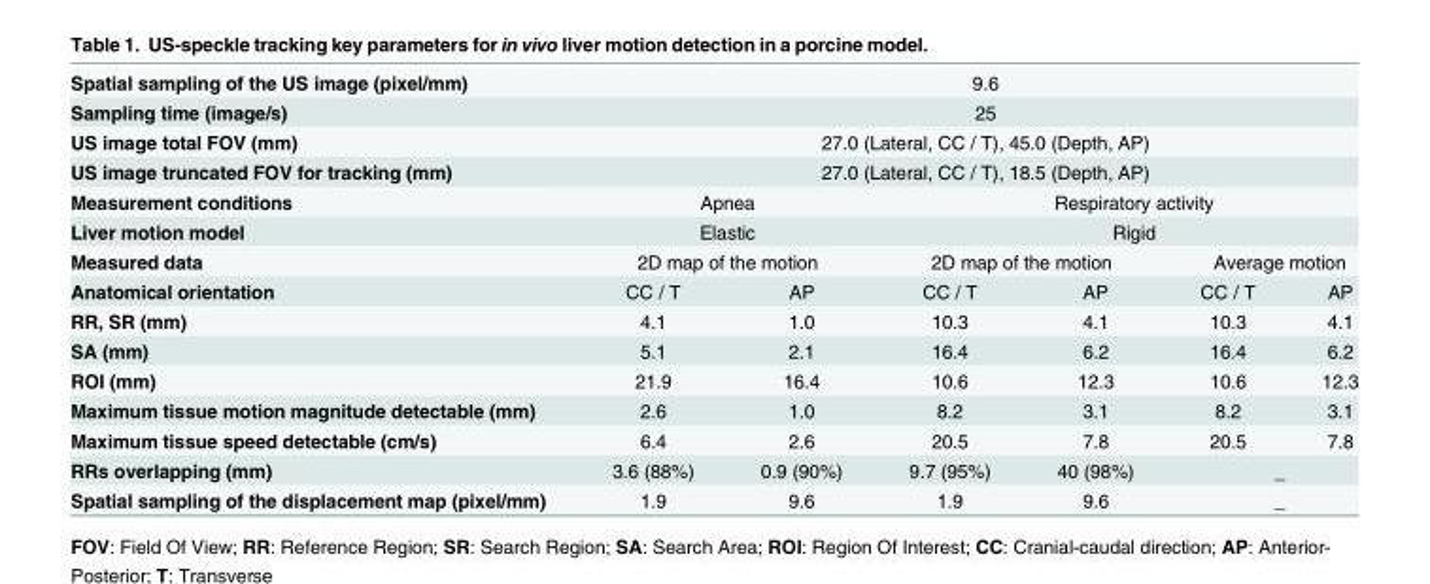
<table><tbody><tr><td>Spatial sampling of the US image (pixel/mm)</td><td colspan="6">9.6</td></tr><tr><td>Sampling time (image/s)</td><td colspan="6">25</td></tr><tr><td>US image total FOV (mm)</td><td colspan="6">27.0 (Lateral, CC / T), 45.0 (Depth, AP)</td></tr><tr><td>US image truncated FOV for tracking (mm)</td><td colspan="6">27.0 (Lateral, CC / T), 18.5 (Depth, AP)</td></tr><tr><td>Measurement conditions</td><td colspan="2">Apnea</td><td colspan="4">Respiratory activity</td></tr><tr><td>Liver motion model</td><td colspan="2">Elastic</td><td colspan="4">Rigid</td></tr><tr><td>Measured data</td><td colspan="2">2D map of the motion</td><td colspan="2">2D map of the motion</td><td colspan="2">Average motion</td></tr><tr><td>Anatomical orientation</td><td>CC / T</td><td>AP</td><td>CC / T</td><td>AP</td><td>CC / T</td><td>AP</td></tr><tr><td>RR, SR (mm)</td><td>4.1</td><td>1.0</td><td>10.3</td><td>4.1</td><td>10.3</td><td>4.1</td></tr><tr><td>SA (mm)</td><td>5.1</td><td>2.1</td><td>16.4</td><td>6.2</td><td>16.4</td><td>6.2</td></tr><tr><td>ROI (mm)</td><td>21.9</td><td>16.4</td><td>10.6</td><td>12.3</td><td>10.6</td><td>12.3</td></tr><tr><td>Maximum tissue motion magnitude detectable (mm)</td><td>2.6</td><td>1.0</td><td>8.2</td><td>3.1</td><td>8.2</td><td>3.1</td></tr><tr><td>Maximum tissue speed detectable (cm/s)</td><td>6.4</td><td>2.6</td><td>20.5</td><td>7.8</td><td>20.5</td><td>7.8</td></tr><tr><td>RRs overlapping (mm)</td><td>3.6 (88%)</td><td>0.9 (90%)</td><td>9.7 (95%)</td><td>40 (98%)</td><td colspan="2">_</td></tr><tr><td>Spatial sampling of the displacement map (pixel/mm)</td><td>1.9</td><td>9.6</td><td>1.9</td><td>9.6</td><td colspan="2">_</td></tr></tbody></table>